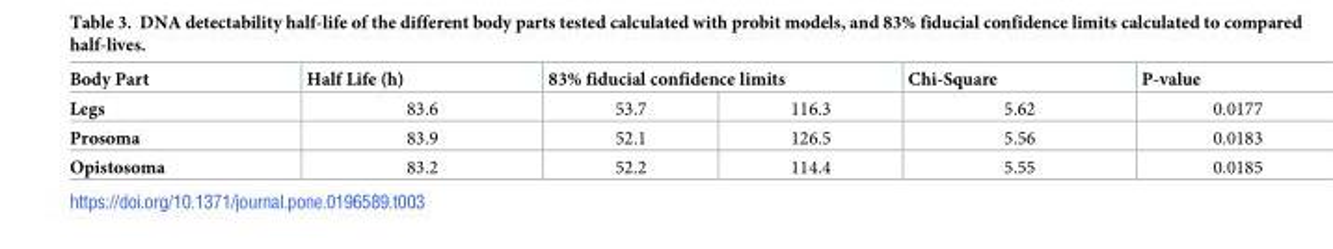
<table><thead><tr><td rowspan="2">Body Part Legs</td><td rowspan="2">Half Life (h) 83.6</td><td colspan="2">83% fiducial confidence limits</td><td rowspan="2">Chi-Square 5.62</td><td rowspan="2">P-value 0.0177</td></tr><tr><td>53.7</td><td>116.3</td></tr></thead><tbody><tr><td>Prosoma</td><td>83.9</td><td>52.1</td><td>126.5</td><td>5.56</td><td>0.0183</td></tr><tr><td>Opistosoma</td><td>83.2</td><td>52.2</td><td>114.4</td><td>5.55</td><td>0.0185</td></tr></tbody></table>